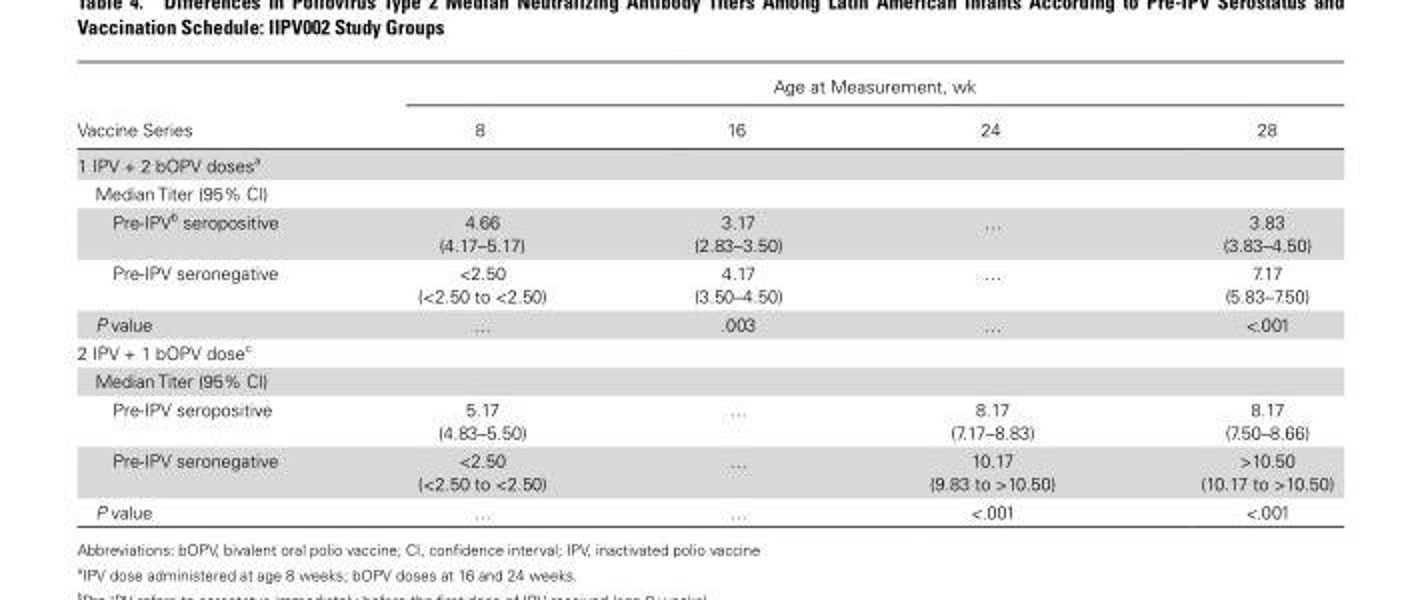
<table><thead><tr><td rowspan="2">Vaccine Series</td><td colspan="4">Age at Measurement, wk</td></tr><tr><td>8</td><td>16</td><td>24</td><td>28</td></tr></thead><tbody><tr><td colspan="5">1 IPV + 2 bOPV doses<sup>a</sup></td></tr><tr><td colspan="5">Median Titer (95% CI)</td></tr><tr><td>Pre-IPV<sup>b</sup> seropositive</td><td>4.66 (4.17–5.17)</td><td>3.17 (2.83–3.50)</td><td>…</td><td>3.83 (3.83–4.50)</td></tr><tr><td>Pre-IPV seronegative</td><td>&lt;2.50 (&lt;2.50 to &lt;2.50)</td><td>4.17 (3.50–4.50)</td><td>…</td><td>7.17 (5.83–7.50)</td></tr><tr><td>P value</td><td>…</td><td>.003</td><td>…</td><td>&lt;.001</td></tr><tr><td colspan="5">2 IPV + 1 bOPV dose<sup>c</sup></td></tr><tr><td colspan="5">Median Titer (95% CI)</td></tr><tr><td>Pre-IPV seropositive</td><td>5.17 (4.83–5.50)</td><td>…</td><td>8.17 (7.17–8.83)</td><td>8.17 (7.50–8.66)</td></tr><tr><td>Pre-IPV seronegative</td><td>&lt;2.50 (&lt;2.50 to &lt;2.50)</td><td>…</td><td>10.17 (9.83 to &gt;10.50)</td><td>&gt;10.50 (10.17 to &gt;10.50)</td></tr><tr><td>P value</td><td>…</td><td>…</td><td>&lt;.001</td><td>&lt;.001</td></tr></tbody></table>